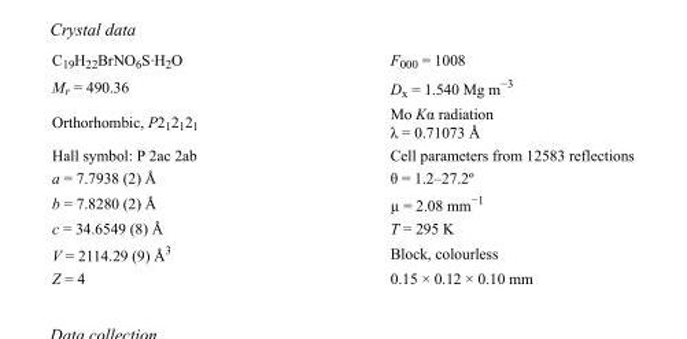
<table><tbody><tr><td>C<sub>19</sub>H<sub>22</sub>BrNO<sub>6</sub>S·H<sub>2</sub>O</td><td>F000 = 1008</td></tr><tr><td>M<sub>r</sub> = 490.36</td><td>D<sub>x</sub> = 1.540 Mg m<sup>−3</sup></td></tr><tr><td>Orthorhombic, P2<sub>1</sub>2<sub>1</sub>2<sub>1</sub></td><td>Mo Kα radiation λ = 0.71073 Å</td></tr><tr><td>Hall symbol: P 2ac 2ab</td><td>Cell parameters from 12583 reflections</td></tr><tr><td>a = 7.7938 (2) Å</td><td>θ = 1.2–27.2º</td></tr><tr><td>b = 7.8280 (2) Å</td><td>µ = 2.08 mm<sup>−1</sup></td></tr><tr><td>c = 34.6549 (8) Å</td><td>T = 295 K</td></tr><tr><td>V = 2114.29 (9) Å<sup>3</sup></td><td>Block, colourless</td></tr><tr><td>Z = 4</td><td>0.15 × 0.12 × 0.10 mm</td></tr></tbody></table>